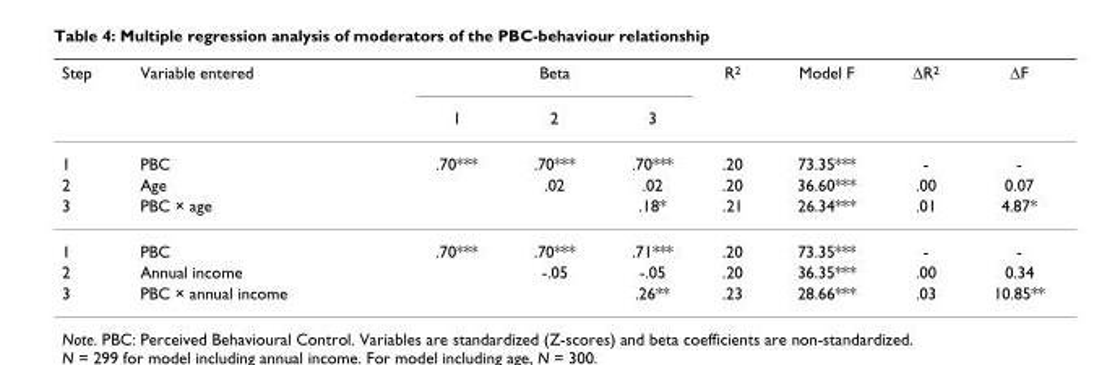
<table><thead><tr><td rowspan="2">Step</td><td rowspan="2">Variable entered</td><td colspan="3">Beta</td><td rowspan="2">R<sup>2</sup></td><td rowspan="2">Model F</td><td rowspan="2">∆R2</td><td rowspan="2">∆F</td></tr><tr><td>1</td><td>2</td><td>3</td></tr></thead><tbody><tr><td>1</td><td>PBC</td><td>.70***</td><td>.70***</td><td>.70***</td><td>.20</td><td>73.35***</td><td>-</td><td>-</td></tr><tr><td>2</td><td>Age</td><td></td><td>.02</td><td>.02</td><td>.20</td><td>36.60***</td><td>.00</td><td>0.07</td></tr><tr><td>3</td><td>PBC × age</td><td></td><td></td><td>.18*</td><td>.21</td><td>26.34***</td><td>.01</td><td>4.87*</td></tr><tr><td>1</td><td>PBC</td><td>.70***</td><td>.70***</td><td>.71***</td><td>.20</td><td>73.35***</td><td>-</td><td>-</td></tr><tr><td>2</td><td>Annual income</td><td></td><td>-.05</td><td>-.05</td><td>.20</td><td>36.35***</td><td>.00</td><td>0.34</td></tr><tr><td>3</td><td>PBC × annual income</td><td></td><td></td><td>.26**</td><td>.23</td><td>28.66***</td><td>.03</td><td>10.85**</td></tr></tbody></table>